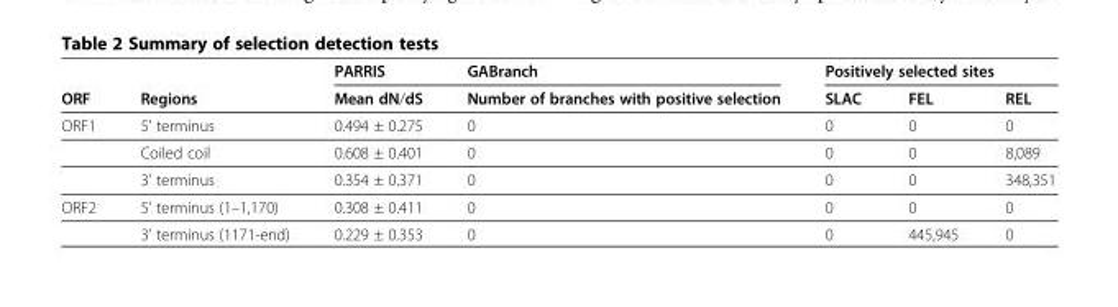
<table><thead><tr><td rowspan="2">ORF</td><td rowspan="2">Regions</td><td rowspan="2">PARRIS Mean dN/dS</td><td rowspan="2">GABranch Number of branches with positive selection</td><td colspan="3">Positively selected sites</td></tr><tr><td>SLAC</td><td>FEL</td><td>REL</td></tr></thead><tbody><tr><td rowspan="3">ORF1</td><td>5&#x27; terminus</td><td>0.494 ± 0.275</td><td>0</td><td>0</td><td>0</td><td>0</td></tr><tr><td>Coiled coil</td><td>0.608 ± 0.401</td><td>0</td><td>0</td><td>0</td><td>8,089</td></tr><tr><td>3&#x27; terminus</td><td>0.354 ± 0.371</td><td>0</td><td>0</td><td>0</td><td>348,351</td></tr><tr><td rowspan="2">ORF2</td><td>5&#x27; terminus (1–1,170)</td><td>0.308 ± 0.411</td><td>0</td><td>0</td><td>0</td><td>0</td></tr><tr><td>3&#x27; terminus (1171-end)</td><td>0.229 ± 0.353</td><td>0</td><td>0</td><td>445,945</td><td>0</td></tr></tbody></table>